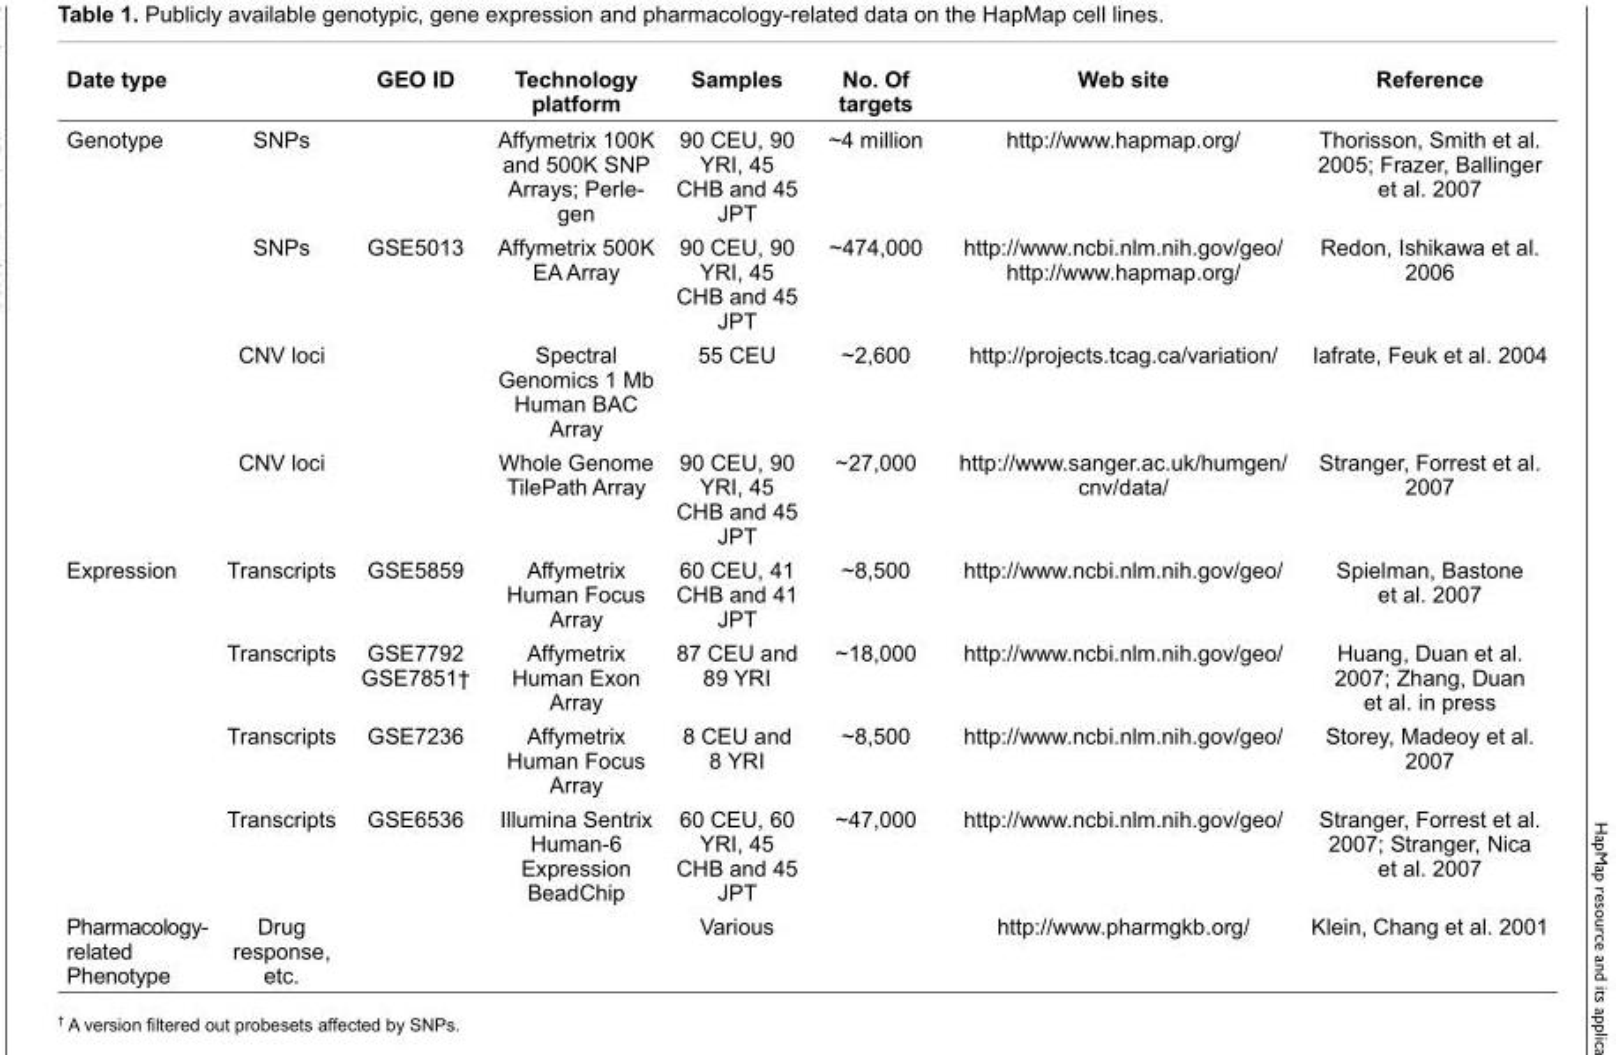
<table><thead><tr><td>Date type</td><td></td><td>GEO ID</td><td>Technology platform</td><td>Samples</td><td>No. Of targets</td><td>Web site</td><td>Reference</td></tr></thead><tbody><tr><td rowspan="4">Genotype</td><td>SNPs</td><td></td><td>Affymetrix 100K and 500K SNP Arrays; Perle- gen</td><td>90 CEU, 90 YRI, 45 CHB and 45 JPT</td><td>~4 million</td><td>http://www.hapmap.org/</td><td>Thorisson, Smith et al. 2005; Frazer, Ballinger et al. 2007</td></tr><tr><td>SNPs</td><td>GSE5013</td><td>Affymetrix 500K EA Array</td><td>90 CEU, 90 YRI, 45 CHB and 45 JPT</td><td>~474,000</td><td>http://www.ncbi.nlm.nih.gov/geo/ http://www.hapmap.org/</td><td>Redon, Ishikawa et al. 2006</td></tr><tr><td>CNV loci</td><td></td><td>Spectral Genomics 1 Mb Human BAC Array</td><td>55 CEU</td><td>~2,600</td><td>http://projects.tcag.ca/variation/</td><td>Iafrate, Feuk et al. 2004</td></tr><tr><td>CNV loci</td><td></td><td>Whole Genome TilePath Array</td><td>90 CEU, 90 YRI, 45 CHB and 45 JPT</td><td>~27,000</td><td>http://www.sanger.ac.uk/humgen/ cnv/data/</td><td>Stranger, Forrest et al. 2007</td></tr><tr><td rowspan="4">Expression</td><td>Transcripts</td><td>GSE5859</td><td>Affymetrix Human Focus Array</td><td>60 CEU, 41 CHB and 41 JPT</td><td>~8,500</td><td>http://www.ncbi.nlm.nih.gov/geo/</td><td>Spielman, Bastone et al. 2007</td></tr><tr><td>Transcripts</td><td>GSE7792 GSE7851†</td><td>Affymetrix Human Exon Array</td><td>87 CEU and 89 YRI</td><td>~18,000</td><td>http://www.ncbi.nlm.nih.gov/geo/</td><td>Huang, Duan et al. 2007; Zhang, Duan et al. in press</td></tr><tr><td>Transcripts</td><td>GSE7236</td><td>Affymetrix Human Focus Array</td><td>8 CEU and 8 YRI</td><td>~8,500</td><td>http://www.ncbi.nlm.nih.gov/geo/</td><td>Storey, Madeoy et al. 2007</td></tr><tr><td>Transcripts</td><td>GSE6536</td><td>Illumina Sentrix Human-6 Expression BeadChip</td><td>60 CEU, 60 YRI, 45 CHB and 45 JPT</td><td>~47,000</td><td>http://www.ncbi.nlm.nih.gov/geo/</td><td>Stranger, Forrest et al. 2007; Stranger, Nica et al. 2007</td></tr><tr><td>Pharmacology- related Phenotype</td><td>Drug response, etc.</td><td></td><td></td><td>Various</td><td></td><td>http://www.pharmgkb.org/</td><td>Klein, Chang et al. 2001</td></tr></tbody></table>